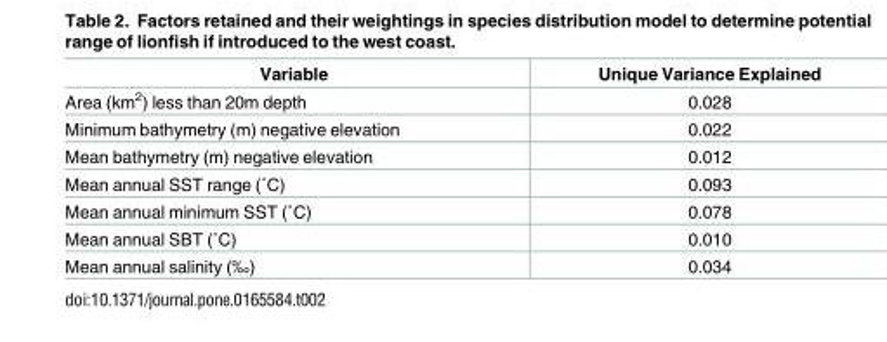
<table><thead><tr><td>Variable</td><td>Unique Variance Explained</td></tr></thead><tbody><tr><td>Area (km<sup>2</sup>) less than 20m depth</td><td>0.028</td></tr><tr><td>Minimum bathymetry (m) negative elevation</td><td>0.022</td></tr><tr><td>Mean bathymetry (m) negative elevation</td><td>0.012</td></tr><tr><td>Mean annual SST range (˚C)</td><td>0.093</td></tr><tr><td>Mean annual minimum SST (˚C)</td><td>0.078</td></tr><tr><td>Mean annual SBT (˚C)</td><td>0.010</td></tr><tr><td>Mean annual salinity (‰)</td><td>0.034</td></tr></tbody></table>